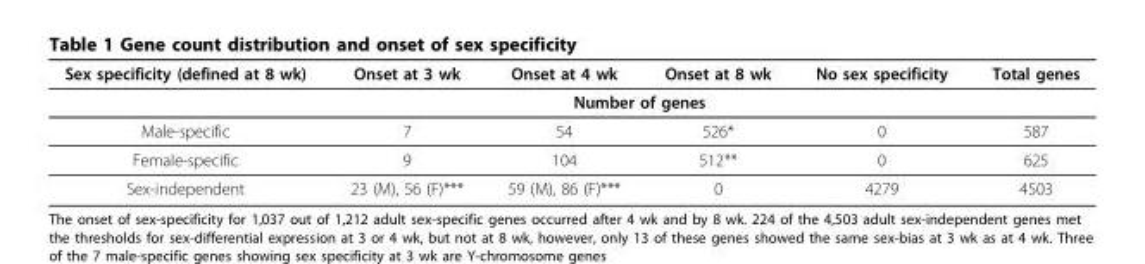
<table><thead><tr><td>Sex specificity (defined at 8 wk)</td><td>Onset at 3 wk</td><td>Onset at 4 wk</td><td>Onset at 8 wk</td><td>No sex specificity</td><td>Total genes</td></tr></thead><tbody><tr><td></td><td></td><td colspan="2">Number of genes</td><td></td><td></td></tr><tr><td>Male-specific</td><td>7</td><td>54</td><td>526*</td><td>0</td><td>587</td></tr><tr><td>Female-specific</td><td>9</td><td>104</td><td>512**</td><td>0</td><td>625</td></tr><tr><td>Sex-independent</td><td>23 (M), 56 (F)***</td><td>59 (M), 86 (F)***</td><td>0</td><td>4279</td><td>4503</td></tr></tbody></table>